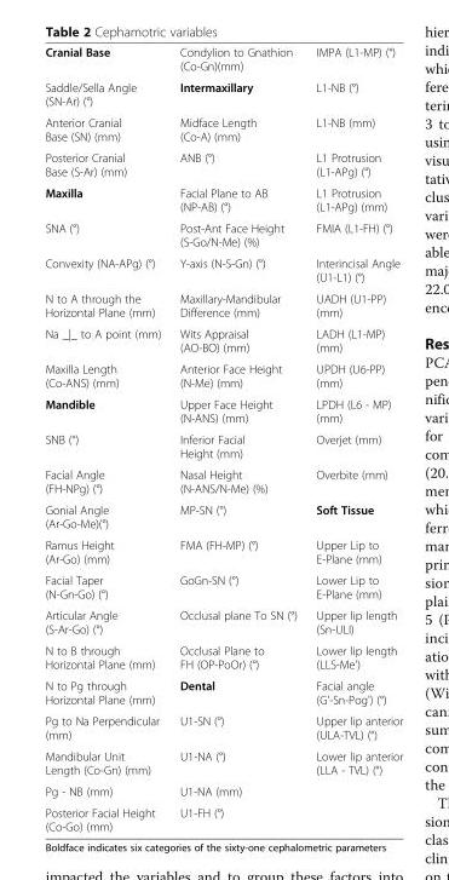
<table><tbody><tr><td>Cranial Base</td><td>Condylion to Gnathion (Co-Gn)(mm)</td><td>IMPA (L1-MP) (°)</td></tr><tr><td>Saddle/Sella Angle (SN-Ar) (°)</td><td>Intermaxillary</td><td>L1-NB (°)</td></tr><tr><td>Anterior Cranial Base (SN) (mm)</td><td>Midface Length (Co-A) (mm)</td><td>L1-NB (mm)</td></tr><tr><td>Posterior Cranial Base (S-Ar) (mm)</td><td>ANB (°)</td><td>L1 Protrusion (L1-APg) (°)</td></tr><tr><td>Maxilla</td><td>Facial Plane to AB (NP-AB) (°)</td><td>L1 Protrusion (L1-APg) (mm)</td></tr><tr><td>SNA (°)</td><td>Post-Ant Face Height (S-Go/N-Me) (%)</td><td>FMIA (L1-FH) (°)</td></tr><tr><td>Convexity (NA-APg) (°)</td><td>Y-axis (N-S-Gn) (°)</td><td>Interincisal Angle (U1-L1) (°)</td></tr><tr><td>N to A through the Horizontal Plane (mm)</td><td>Maxillary-Mandibular Difference (mm)</td><td>UADH (U1-PP) (mm)</td></tr><tr><td>Na _|_ to A point (mm)</td><td>Wits Appraisal (AO-BO) (mm)</td><td>LADH (L1-MP) (mm)</td></tr><tr><td>Maxilla Length (Co-ANS) (mm)</td><td>Anterior Face Height (N-Me) (mm)</td><td>UPDH (U6-PP) (mm)</td></tr><tr><td>Mandible</td><td>Upper Face Height (N-ANS) (mm)</td><td>LPDH (L6 - MP) (mm)</td></tr><tr><td>SNB (°)</td><td>Inferior Facial Height (mm)</td><td>Overjet (mm)</td></tr><tr><td>Facial Angle (FH-NPg) (°)</td><td>Nasal Height (N-ANS/N-Me) (%)</td><td>Overbite (mm)</td></tr><tr><td>Gonial Angle (Ar-Go-Me)(°)</td><td>MP-SN (°)</td><td>Soft Tissue</td></tr><tr><td>Ramus Height (Ar-Go) (mm)</td><td>FMA (FH-MP) (°)</td><td>Upper Lip to E-Plane (mm)</td></tr><tr><td>Facial Taper (N-Gn-Go) (°)</td><td>GoGn-SN (°)</td><td>Lower Lip to E-Plane (mm)</td></tr><tr><td>Articular Angle (S-Ar-Go) (°)</td><td>Occlusal plane To SN (°)</td><td>Upper lip length (Sn-ULI)</td></tr><tr><td>N to B through Horizontal Plane (mm)</td><td>Occlusal Plane to FH (OP-PoOr) (°)</td><td>Lower lip length (LLS-Me&#x27;)</td></tr><tr><td>N to Pg through Horizontal Plane (mm)</td><td>Dental</td><td>Facial angle (G&#x27;-Sn-Pog&#x27;) (°)</td></tr><tr><td>Pg to Na Perpendicular (mm)</td><td>U1-SN (°)</td><td>Upper lip anterior (ULA-TVL) (°)</td></tr><tr><td>Mandibular Unit Length (Co-Gn) (mm)</td><td>U1-NA (°)</td><td>Lower lip anterior (LLA - TVL) (°)</td></tr><tr><td>Pg - NB (mm)</td><td>U1-NA (mm)</td><td></td></tr><tr><td>Posterior Facial Height (Co-Go) (mm)</td><td>U1-FH (°)</td><td></td></tr></tbody></table>